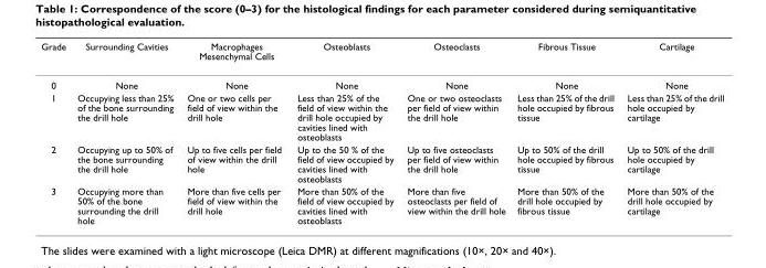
<table><thead><tr><td>Grade</td><td>Surrounding Cavities</td><td>Macrophages Mesenchymal Cells</td><td>Osteoblasts</td><td>Osteoclasts</td><td>Fibrous Tissue</td><td>Cartilage</td></tr></thead><tbody><tr><td>0</td><td>None</td><td>None</td><td>None</td><td>None</td><td>None</td><td>None</td></tr><tr><td>1</td><td>Occupying less than 25% of the bone surrounding the drill hole</td><td>One or two cells per field of view within the drill hole</td><td>Less than 25% of the field of view within the drill hole occupied by cavities lined with osteoblasts</td><td>One or two osteoclasts per field of view within the drill hole</td><td>Less than 25% of the drill hole occupied by fibrous tissue</td><td>Less than 25% of the drill hole occupied by cartilage</td></tr><tr><td>2</td><td>Occupying up to 50% of the bone surrounding the drill hole</td><td>Up to five cells per field of view within the drill hole</td><td>Up to the 50 % of the field of view occupied by cavities lined with osteoblasts</td><td>Up to five osteoclasts per field of view within the drill hole</td><td>Up to 50% of the drill hole occupied by fibrous tissue</td><td>Up to 50% of the drill hole occupied by cartilage</td></tr><tr><td>3</td><td>Occupying more than 50% of the bone surrounding the drill hole</td><td>More than five cells per field of view within the drill hole</td><td>More than 50% of the field of view occupied by cavities lined with osteoblasts</td><td>More than five osteoclasts per field of view within the drill hole</td><td>More than 50% of the drill hole occupied by fibrous tissue</td><td>More than 50% of the drill hole occupied by cartilage</td></tr></tbody></table>